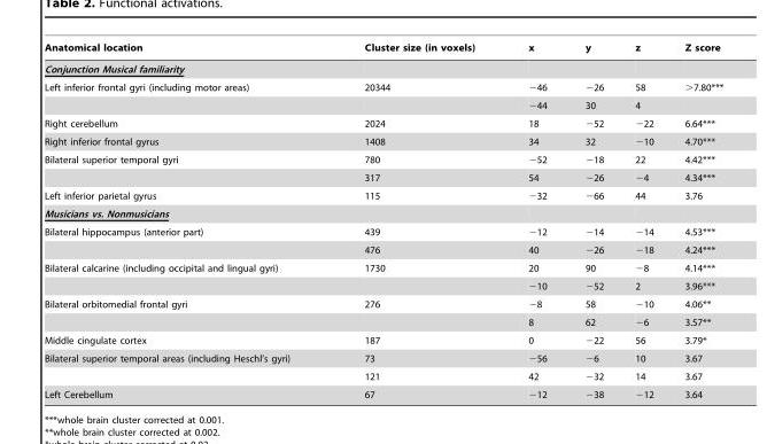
<table><thead><tr><td>Anatomical location</td><td>Cluster size (in voxels)</td><td>x</td><td>y</td><td>z</td><td>Z score</td></tr></thead><tbody><tr><td colspan="6">Conjunction Musical familiarity</td></tr><tr><td rowspan="2">Left inferior frontal gyri (including motor areas)</td><td>20344</td><td>−46</td><td>−26</td><td>58</td><td>&gt;7.80***</td></tr><tr><td></td><td>−44</td><td>30</td><td>4</td><td></td></tr><tr><td>Right cerebellum</td><td>2024</td><td>18</td><td>−52</td><td>−22</td><td>6.64***</td></tr><tr><td>Right inferior frontal gyrus</td><td>1408</td><td>34</td><td>32</td><td>−10</td><td>4.70***</td></tr><tr><td rowspan="2">Bilateral superior temporal gyri</td><td>780</td><td>−52</td><td>−18</td><td>22</td><td>4.42***</td></tr><tr><td>317</td><td>54</td><td>−26</td><td>−4</td><td>4.34***</td></tr><tr><td>Left inferior parietal gyrus</td><td>115</td><td>−32</td><td>−66</td><td>44</td><td>3.76</td></tr><tr><td colspan="6">Musicians vs. Nonmusicians</td></tr><tr><td rowspan="2">Bilateral hippocampus (anterior part)</td><td>439</td><td>−12</td><td>−14</td><td>−14</td><td>4.53***</td></tr><tr><td>476</td><td>40</td><td>−26</td><td>−18</td><td>4.24***</td></tr><tr><td rowspan="2">Bilateral calcarine (including occipital and lingual gyri)</td><td>1730</td><td>20</td><td>90</td><td>−8</td><td>4.14***</td></tr><tr><td></td><td>−10</td><td>−52</td><td>2</td><td>3.96***</td></tr><tr><td rowspan="2">Bilateral orbitomedial frontal gyri</td><td>276</td><td>−8</td><td>58</td><td>−10</td><td>4.06**</td></tr><tr><td></td><td>8</td><td>62</td><td>−6</td><td>3.57**</td></tr><tr><td>Middle cingulate cortex</td><td>187</td><td>0</td><td>−22</td><td>56</td><td>3.79*</td></tr><tr><td rowspan="2">Bilateral superior temporal areas (including Heschl’s gyri)</td><td>73</td><td>−56</td><td>−6</td><td>10</td><td>3.67</td></tr><tr><td>121</td><td>42</td><td>−32</td><td>14</td><td>3.67</td></tr><tr><td>Left Cerebellum</td><td>67</td><td>−12</td><td>−38</td><td>−12</td><td>3.64</td></tr></tbody></table>